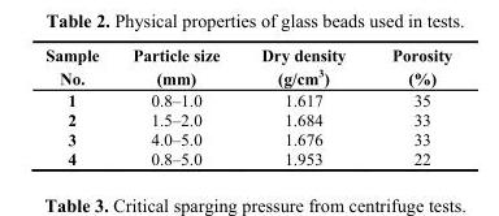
<table><thead><tr><td>Sample No.</td><td>Particle size (mm)</td><td>Dry density (g/cm<sup>3</sup>)</td><td>Porosity (%)</td></tr></thead><tbody><tr><td>1</td><td>0.8–1.0</td><td>1.617</td><td>35</td></tr><tr><td>2</td><td>1.5–2.0</td><td>1.684</td><td>33</td></tr><tr><td>3</td><td>4.0–5.0</td><td>1.676</td><td>33</td></tr><tr><td>4</td><td>0.8–5.0</td><td>1.953</td><td>22</td></tr></tbody></table>